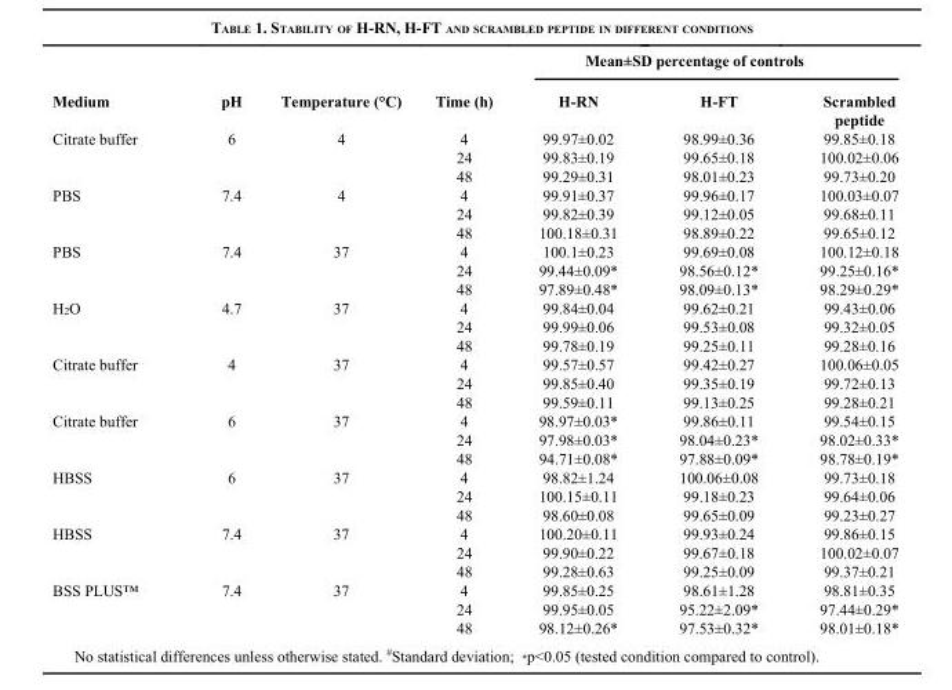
<table><thead><tr><td rowspan="2">Medium</td><td rowspan="2">pH</td><td rowspan="2">Temperature (°C)</td><td rowspan="2">Time (h)</td><td colspan="3">Mean±SD percentage of controls</td></tr><tr><td>H-RN</td><td>H-FT</td><td>Scrambled peptide</td></tr></thead><tbody><tr><td rowspan="3">Citrate buffer</td><td>6</td><td>4</td><td>4</td><td>99.97±0.02</td><td>98.99±0.36</td><td>99.85±0.18</td></tr><tr><td></td><td></td><td>24</td><td>99.83±0.19</td><td>99.65±0.18</td><td>100.02±0.06</td></tr><tr><td></td><td></td><td>48</td><td>99.29±0.31</td><td>98.01±0.23</td><td>99.73±0.20</td></tr><tr><td rowspan="3">PBS</td><td>7.4</td><td>4</td><td>4</td><td>99.91±0.37</td><td>99.96±0.17</td><td>100.03±0.07</td></tr><tr><td></td><td></td><td>24</td><td>99.82±0.39</td><td>99.12±0.05</td><td>99.68±0.11</td></tr><tr><td></td><td></td><td>48</td><td>100.18±0.31</td><td>98.89±0.22</td><td>99.65±0.12</td></tr><tr><td rowspan="3">PBS</td><td>7.4</td><td>37</td><td>4</td><td>100.1±0.23</td><td>99.69±0.08</td><td>100.12±0.18</td></tr><tr><td></td><td></td><td>24</td><td>99.44±0.09*</td><td>98.56±0.12*</td><td>99.25±0.16*</td></tr><tr><td></td><td></td><td>48</td><td>97.89±0.48*</td><td>98.09±0.13*</td><td>98.29±0.29*</td></tr><tr><td rowspan="3">H<sub>2</sub>O</td><td>4.7</td><td>37</td><td>4</td><td>99.84±0.04</td><td>99.62±0.21</td><td>99.43±0.06</td></tr><tr><td></td><td></td><td>24</td><td>99.99±0.06</td><td>99.53±0.08</td><td>99.32±0.05</td></tr><tr><td></td><td></td><td>48</td><td>99.78±0.19</td><td>99.25±0.11</td><td>99.28±0.16</td></tr><tr><td rowspan="3">Citrate buffer</td><td>4</td><td>37</td><td>4</td><td>99.57±0.57</td><td>99.42±0.27</td><td>100.06±0.05</td></tr><tr><td></td><td></td><td>24</td><td>99.85±0.40</td><td>99.35±0.19</td><td>99.72±0.13</td></tr><tr><td></td><td></td><td>48</td><td>99.59±0.11</td><td>99.13±0.25</td><td>99.28±0.21</td></tr><tr><td rowspan="3">Citrate buffer</td><td>6</td><td>37</td><td>4</td><td>98.97±0.03*</td><td>99.86±0.11</td><td>99.54±0.15</td></tr><tr><td></td><td></td><td>24</td><td>97.98±0.03*</td><td>98.04±0.23*</td><td>98.02±0.33*</td></tr><tr><td></td><td></td><td>48</td><td>94.71±0.08*</td><td>97.88±0.09*</td><td>98.78±0.19*</td></tr><tr><td rowspan="3">HBSS</td><td>6</td><td>37</td><td>4</td><td>98.82±1.24</td><td>100.06±0.08</td><td>99.73±0.18</td></tr><tr><td></td><td></td><td>24</td><td>100.15±0.11</td><td>99.18±0.23</td><td>99.64±0.06</td></tr><tr><td></td><td></td><td>48</td><td>98.60±0.08</td><td>99.65±0.09</td><td>99.23±0.27</td></tr><tr><td rowspan="3">HBSS</td><td>7.4</td><td>37</td><td>4</td><td>100.20±0.11</td><td>99.93±0.24</td><td>99.86±0.15</td></tr><tr><td></td><td></td><td>24</td><td>99.90±0.22</td><td>99.67±0.18</td><td>100.02±0.07</td></tr><tr><td></td><td></td><td>48</td><td>99.28±0.63</td><td>99.25±0.09</td><td>99.37±0.21</td></tr><tr><td rowspan="3">BSS PLUS™</td><td>7.4</td><td>37</td><td>4</td><td>99.85±0.25</td><td>98.61±1.28</td><td>98.81±0.35</td></tr><tr><td></td><td></td><td>24</td><td>99.95±0.05</td><td>95.22±2.09*</td><td>97.44±0.29*</td></tr><tr><td></td><td></td><td>48</td><td>98.12±0.26*</td><td>97.53±0.32*</td><td>98.01±0.18*</td></tr></tbody></table>